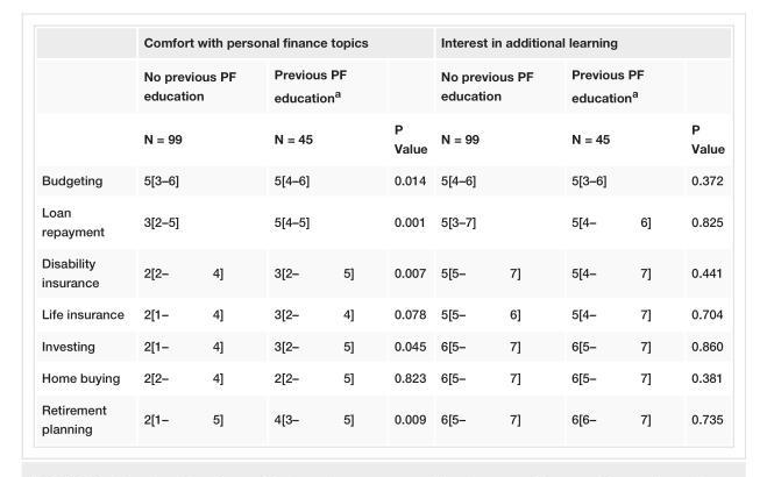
<table><thead><tr><td rowspan="2"></td><td colspan="3">Comfort with personal finance topics</td><td colspan="3">Interest in additional learning</td></tr><tr><td>No previous PF education</td><td>Previous PF education<sup>a</sup></td><td></td><td>No previous PF education</td><td>Previous PF education<sup>a</sup></td><td></td></tr></thead><tbody><tr><td></td><td>N = 99</td><td>N = 45</td><td>P Value</td><td>N = 99</td><td>N = 45</td><td>P Value</td></tr><tr><td>Budgeting</td><td>5[3–6]</td><td>5[4–6]</td><td>0.014</td><td>5[4–6]</td><td>5[3–6]</td><td>0.372</td></tr><tr><td>Loan repayment</td><td>3[2–5]</td><td>5[4–5]</td><td>0.001</td><td>5[3–7]</td><td>5[4–6]</td><td>0.825</td></tr><tr><td>Disability insurance</td><td>2[2–4]</td><td>3[2–5]</td><td>0.007</td><td>5[5–7]</td><td>5[4–7]</td><td>0.441</td></tr><tr><td>Life insurance</td><td>2[1–4]</td><td>3[2–4]</td><td>0.078</td><td>5[5–6]</td><td>5[4–7]</td><td>0.704</td></tr><tr><td>Investing</td><td>2[1–4]</td><td>3[2–5]</td><td>0.045</td><td>6[5–7]</td><td>6[5–7]</td><td>0.860</td></tr><tr><td>Home buying</td><td>2[2–4]</td><td>2[2–5]</td><td>0.823</td><td>6[5–7]</td><td>6[5–7]</td><td>0.381</td></tr><tr><td>Retirement planning</td><td>2[1–5]</td><td>4[3–5]</td><td>0.009</td><td>6[5–7]</td><td>6[6–7]</td><td>0.735</td></tr></tbody></table>